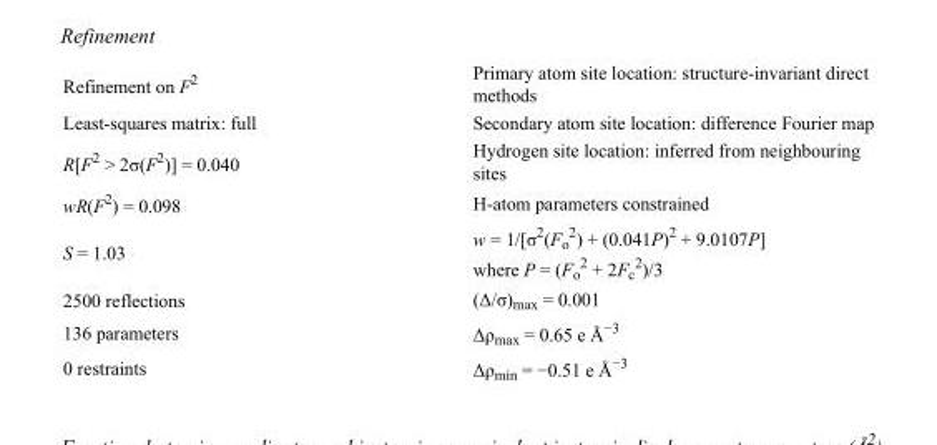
<table><tbody><tr><td>Refinement on F<sup>2</sup></td><td>Primary atom site location: structure-invariant direct methods</td></tr><tr><td>Least-squares matrix: full</td><td>Secondary atom site location: difference Fourier map</td></tr><tr><td>R[F<sup>2</sup> &gt; 2σ(F<sup>2</sup>)] = 0.040</td><td>Hydrogen site location: inferred from neighbouring sites</td></tr><tr><td>wR(F<sup>2</sup>) = 0.098</td><td>H-atom parameters constrained</td></tr><tr><td>S = 1.03</td><td>w = 1/[σ<sup>2</sup>(F<sub>o</sub> <sup>2</sup>) + (0.041P)<sup>2</sup> + 9.0107P] where P = (F<sub>o</sub> <sup>2</sup> + 2F<sub>c</sub> <sup>2</sup>)/3</td></tr><tr><td>2500 reflections</td><td>(Δ/σ)<sub>max</sub> = 0.001</td></tr><tr><td>136 parameters</td><td>Δρ<sub>max</sub> = 0.65 e Å<sup>−3</sup></td></tr><tr><td>0 restraints</td><td>Δρ<sub>min</sub> = −0.51 e Å<sup>−3</sup></td></tr></tbody></table>